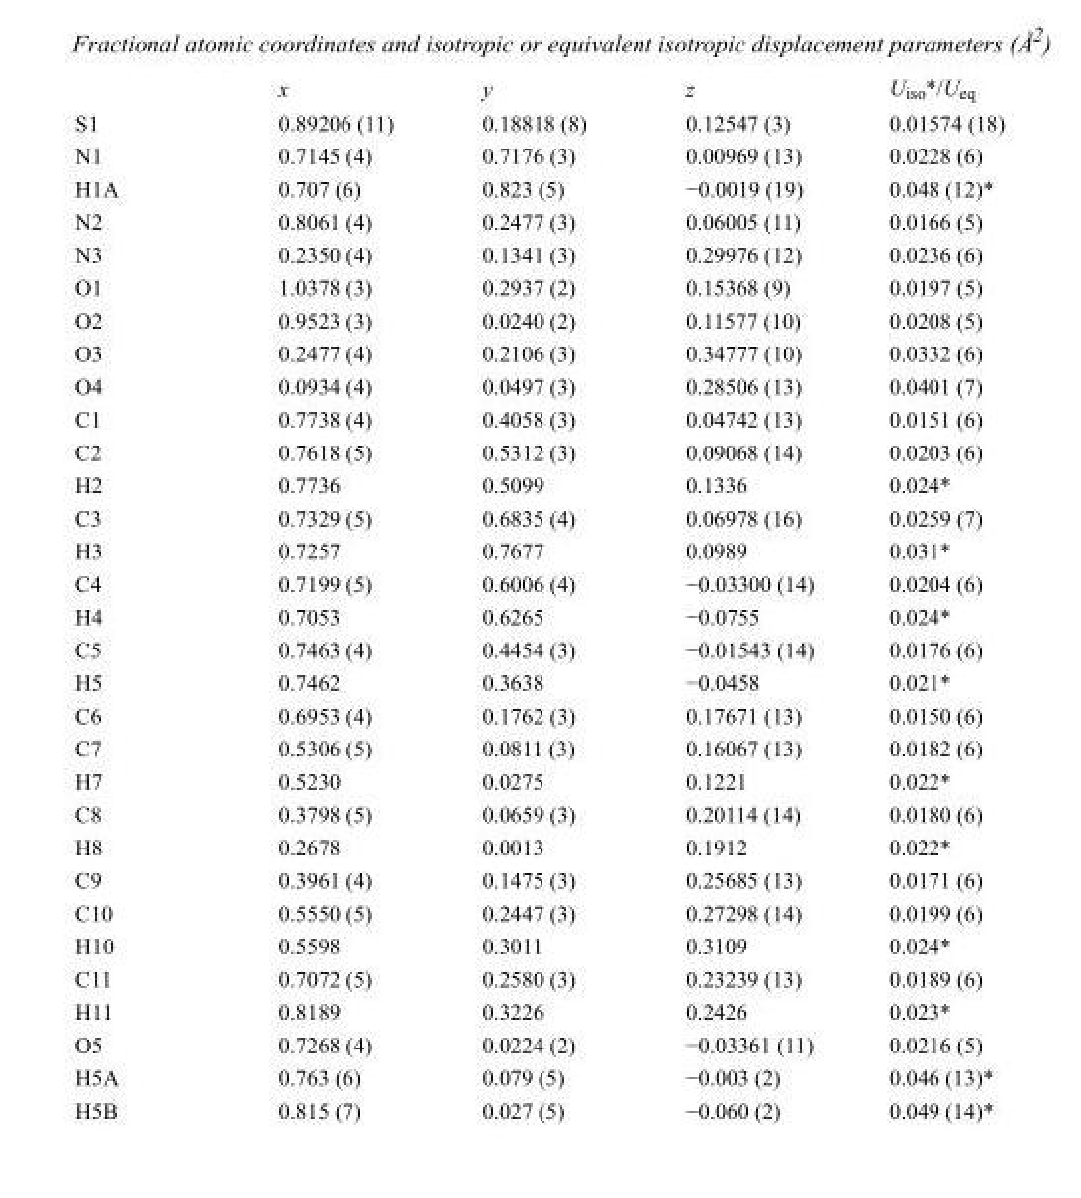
<table><thead><tr><td></td><td>x</td><td>y</td><td>z</td><td>U<sub>iso</sub>*/U<sub>eq</sub></td></tr></thead><tbody><tr><td>S1</td><td>0.89206 (11)</td><td>0.18818 (8)</td><td>0.12547 (3)</td><td>0.01574 (18)</td></tr><tr><td>N1</td><td>0.7145 (4)</td><td>0.7176 (3)</td><td>0.00969 (13)</td><td>0.0228 (6)</td></tr><tr><td>H1A</td><td>0.707 (6)</td><td>0.823 (5)</td><td>−0.0019 (19)</td><td>0.048 (12)*</td></tr><tr><td>N2</td><td>0.8061 (4)</td><td>0.2477 (3)</td><td>0.06005 (11)</td><td>0.0166 (5)</td></tr><tr><td>N3</td><td>0.2350 (4)</td><td>0.1341 (3)</td><td>0.29976 (12)</td><td>0.0236 (6)</td></tr><tr><td>O1</td><td>1.0378 (3)</td><td>0.2937 (2)</td><td>0.15368 (9)</td><td>0.0197 (5)</td></tr><tr><td>O2</td><td>0.9523 (3)</td><td>0.0240 (2)</td><td>0.11577 (10)</td><td>0.0208 (5)</td></tr><tr><td>O3</td><td>0.2477 (4)</td><td>0.2106 (3)</td><td>0.34777 (10)</td><td>0.0332 (6)</td></tr><tr><td>O4</td><td>0.0934 (4)</td><td>0.0497 (3)</td><td>0.28506 (13)</td><td>0.0401 (7)</td></tr><tr><td>C1</td><td>0.7738 (4)</td><td>0.4058 (3)</td><td>0.04742 (13)</td><td>0.0151 (6)</td></tr><tr><td>C2</td><td>0.7618 (5)</td><td>0.5312 (3)</td><td>0.09068 (14)</td><td>0.0203 (6)</td></tr><tr><td>H2</td><td>0.7736</td><td>0.5099</td><td>0.1336</td><td>0.024*</td></tr><tr><td>C3</td><td>0.7329 (5)</td><td>0.6835 (4)</td><td>0.06978 (16)</td><td>0.0259 (7)</td></tr><tr><td>H3</td><td>0.7257</td><td>0.7677</td><td>0.0989</td><td>0.031*</td></tr><tr><td>C4</td><td>0.7199 (5)</td><td>0.6006 (4)</td><td>−0.03300 (14)</td><td>0.0204 (6)</td></tr><tr><td>H4</td><td>0.7053</td><td>0.6265</td><td>−0.0755</td><td>0.024*</td></tr><tr><td>C5</td><td>0.7463 (4)</td><td>0.4454 (3)</td><td>−0.01543 (14)</td><td>0.0176 (6)</td></tr><tr><td>H5</td><td>0.7462</td><td>0.3638</td><td>−0.0458</td><td>0.021*</td></tr><tr><td>C6</td><td>0.6953 (4)</td><td>0.1762 (3)</td><td>0.17671 (13)</td><td>0.0150 (6)</td></tr><tr><td>C7</td><td>0.5306 (5)</td><td>0.0811 (3)</td><td>0.16067 (13)</td><td>0.0182 (6)</td></tr><tr><td>H7</td><td>0.5230</td><td>0.0275</td><td>0.1221</td><td>0.022*</td></tr><tr><td>C8</td><td>0.3798 (5)</td><td>0.0659 (3)</td><td>0.20114 (14)</td><td>0.0180 (6)</td></tr><tr><td>H8</td><td>0.2678</td><td>0.0013</td><td>0.1912</td><td>0.022*</td></tr><tr><td>C9</td><td>0.3961 (4)</td><td>0.1475 (3)</td><td>0.25685 (13)</td><td>0.0171 (6)</td></tr><tr><td>C10</td><td>0.5550 (5)</td><td>0.2447 (3)</td><td>0.27298 (14)</td><td>0.0199 (6)</td></tr><tr><td>H10</td><td>0.5598</td><td>0.3011</td><td>0.3109</td><td>0.024*</td></tr><tr><td>C11</td><td>0.7072 (5)</td><td>0.2580 (3)</td><td>0.23239 (13)</td><td>0.0189 (6)</td></tr><tr><td>H11</td><td>0.8189</td><td>0.3226</td><td>0.2426</td><td>0.023*</td></tr><tr><td>O5</td><td>0.7268 (4)</td><td>0.0224 (2)</td><td>−0.03361 (11)</td><td>0.0216 (5)</td></tr><tr><td>H5A</td><td>0.763 (6)</td><td>0.079 (5)</td><td>−0.003 (2)</td><td>0.046 (13)*</td></tr><tr><td>H5B</td><td>0.815 (7)</td><td>0.027 (5)</td><td>−0.060 (2)</td><td>0.049 (14)*</td></tr></tbody></table>